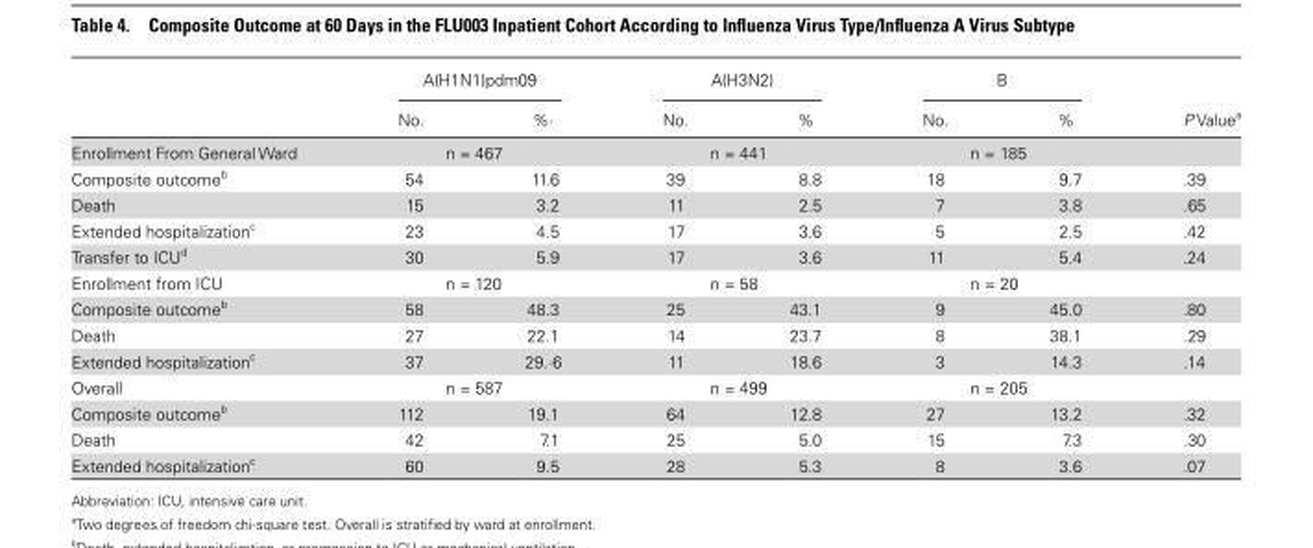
<table><thead><tr><td rowspan="2"></td><td colspan="2">A(H1N1)pdm09</td><td colspan="2">A(H3N2)</td><td colspan="2">B</td><td rowspan="2">P Value<sup>a</sup></td></tr><tr><td>No.</td><td>%·</td><td>No.</td><td>%</td><td>No.</td><td>%</td></tr></thead><tbody><tr><td>Enrollment From General Ward</td><td colspan="2">n = 467</td><td colspan="2">n = 441</td><td colspan="2">n = 185</td><td></td></tr><tr><td>Composite outcome<sup>b</sup></td><td>54</td><td>11.6</td><td>39</td><td>8.8</td><td>18</td><td>9.7</td><td>.39</td></tr><tr><td>Death</td><td>15</td><td>3.2</td><td>11</td><td>2.5</td><td>7</td><td>3.8</td><td>.65</td></tr><tr><td>Extended hospitalization<sup>c</sup></td><td>23</td><td>4.5</td><td>17</td><td>3.6</td><td>5</td><td>2.5</td><td>.42</td></tr><tr><td>Transfer to ICU<sup>d</sup></td><td>30</td><td>5.9</td><td>17</td><td>3.6</td><td>11</td><td>5.4</td><td>.24</td></tr><tr><td>Enrollment from ICU</td><td colspan="2">n = 120</td><td colspan="2">n = 58</td><td colspan="2">n = 20</td><td></td></tr><tr><td>Composite outcome<sup>b</sup></td><td>58</td><td>48.3</td><td>25</td><td>43.1</td><td>9</td><td>45.0</td><td>.80</td></tr><tr><td>Death</td><td>27</td><td>22.1</td><td>14</td><td>23.7</td><td>8</td><td>38.1</td><td>.29</td></tr><tr><td>Extended hospitalization<sup>c</sup></td><td>37</td><td>29.·6</td><td>11</td><td>18.6</td><td>3</td><td>14.3</td><td>.14</td></tr><tr><td>Overall</td><td colspan="2">n = 587</td><td colspan="2">n = 499</td><td colspan="2">n = 205</td><td></td></tr><tr><td>Composite outcome<sup>b</sup></td><td>112</td><td>19.1</td><td>64</td><td>12.8</td><td>27</td><td>13.2</td><td>.32</td></tr><tr><td>Death</td><td>42</td><td>7.1</td><td>25</td><td>5.0</td><td>15</td><td>7.3</td><td>.30</td></tr><tr><td>Extended hospitalization<sup>c</sup></td><td>60</td><td>9.5</td><td>28</td><td>5.3</td><td>8</td><td>3.6</td><td>.07</td></tr></tbody></table>